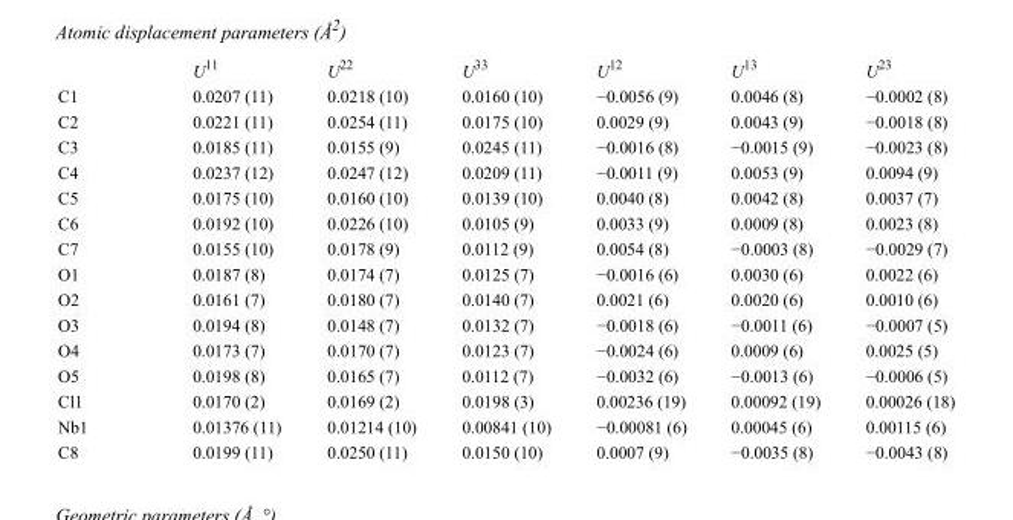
<table><thead><tr><td></td><td>U<sup>11</sup></td><td>U<sup>22</sup></td><td>U<sup>33</sup></td><td>U<sup>12</sup></td><td>U<sup>13</sup></td><td>U<sup>23</sup></td></tr></thead><tbody><tr><td>C1</td><td>0.0207 (11)</td><td>0.0218 (10)</td><td>0.0160 (10)</td><td>−0.0056 (9)</td><td>0.0046 (8)</td><td>−0.0002 (8)</td></tr><tr><td>C2</td><td>0.0221 (11)</td><td>0.0254 (11)</td><td>0.0175 (10)</td><td>0.0029 (9)</td><td>0.0043 (9)</td><td>−0.0018 (8)</td></tr><tr><td>C3</td><td>0.0185 (11)</td><td>0.0155 (9)</td><td>0.0245 (11)</td><td>−0.0016 (8)</td><td>−0.0015 (9)</td><td>−0.0023 (8)</td></tr><tr><td>C4</td><td>0.0237 (12)</td><td>0.0247 (12)</td><td>0.0209 (11)</td><td>−0.0011 (9)</td><td>0.0053 (9)</td><td>0.0094 (9)</td></tr><tr><td>C5</td><td>0.0175 (10)</td><td>0.0160 (10)</td><td>0.0139 (10)</td><td>0.0040 (8)</td><td>0.0042 (8)</td><td>0.0037 (7)</td></tr><tr><td>C6</td><td>0.0192 (10)</td><td>0.0226 (10)</td><td>0.0105 (9)</td><td>0.0033 (9)</td><td>0.0009 (8)</td><td>0.0023 (8)</td></tr><tr><td>C7</td><td>0.0155 (10)</td><td>0.0178 (9)</td><td>0.0112 (9)</td><td>0.0054 (8)</td><td>−0.0003 (8)</td><td>−0.0029 (7)</td></tr><tr><td>O1</td><td>0.0187 (8)</td><td>0.0174 (7)</td><td>0.0125 (7)</td><td>−0.0016 (6)</td><td>0.0030 (6)</td><td>0.0022 (6)</td></tr><tr><td>O2</td><td>0.0161 (7)</td><td>0.0180 (7)</td><td>0.0140 (7)</td><td>0.0021 (6)</td><td>0.0020 (6)</td><td>0.0010 (6)</td></tr><tr><td>O3</td><td>0.0194 (8)</td><td>0.0148 (7)</td><td>0.0132 (7)</td><td>−0.0018 (6)</td><td>−0.0011 (6)</td><td>−0.0007 (5)</td></tr><tr><td>O4</td><td>0.0173 (7)</td><td>0.0170 (7)</td><td>0.0123 (7)</td><td>−0.0024 (6)</td><td>0.0009 (6)</td><td>0.0025 (5)</td></tr><tr><td>O5</td><td>0.0198 (8)</td><td>0.0165 (7)</td><td>0.0112 (7)</td><td>−0.0032 (6)</td><td>−0.0013 (6)</td><td>−0.0006 (5)</td></tr><tr><td>Cl1</td><td>0.0170 (2)</td><td>0.0169 (2)</td><td>0.0198 (3)</td><td>0.00236 (19)</td><td>0.00092 (19)</td><td>0.00026 (18)</td></tr><tr><td>Nb1</td><td>0.01376 (11)</td><td>0.01214 (10)</td><td>0.00841 (10)</td><td>−0.00081 (6)</td><td>0.00045 (6)</td><td>0.00115 (6)</td></tr><tr><td>C8</td><td>0.0199 (11)</td><td>0.0250 (11)</td><td>0.0150 (10)</td><td>0.0007 (9)</td><td>−0.0035 (8)</td><td>−0.0043 (8)</td></tr></tbody></table>